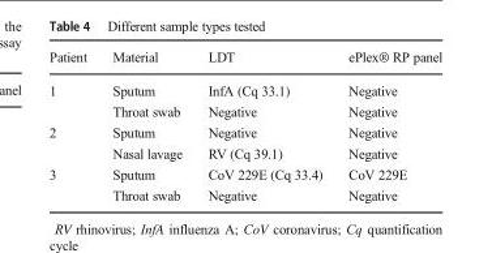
<table><thead><tr><td>Patient</td><td>Material</td><td>LDT</td><td>ePlex® RP panel</td></tr></thead><tbody><tr><td rowspan="2">1</td><td>Sputum</td><td>InfA (Cq 33.1)</td><td>Negative</td></tr><tr><td>Throat swab</td><td>Negative</td><td>Negative</td></tr><tr><td rowspan="2">2</td><td>Sputum</td><td>Negative</td><td>Negative</td></tr><tr><td>Nasal lavage</td><td>RV (Cq 39.1)</td><td>Negative</td></tr><tr><td rowspan="2">3</td><td>Sputum</td><td>CoV 229E (Cq 33.4)</td><td>CoV 229E</td></tr><tr><td>Throat swab</td><td>Negative</td><td>Negative</td></tr></tbody></table>